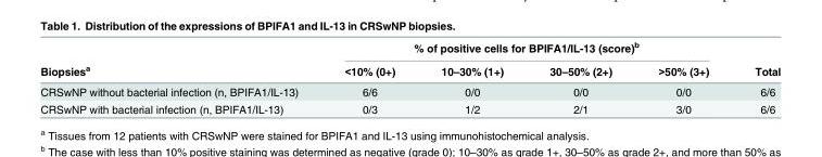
<table><thead><tr><td rowspan="2">Biopsies<sup>a</sup></td><td colspan="4">% of positive cells for BPIFA1/IL-13 (score)<sup>b</sup></td><td rowspan="2">Total</td></tr><tr><td>&lt;10% (0+)</td><td>10–30% (1+)</td><td>30–50% (2+)</td><td>&gt;50% (3+)</td></tr></thead><tbody><tr><td>CRSwNP without bacterial infection (n, BPIFA1/IL-13)</td><td>6/6</td><td>0/0</td><td>0/0</td><td>0/0</td><td>6/6</td></tr><tr><td>CRSwNP with bacterial infection (n, BPIFA1/IL-13)</td><td>0/3</td><td>1/2</td><td>2/1</td><td>3/0</td><td>6/6</td></tr></tbody></table>